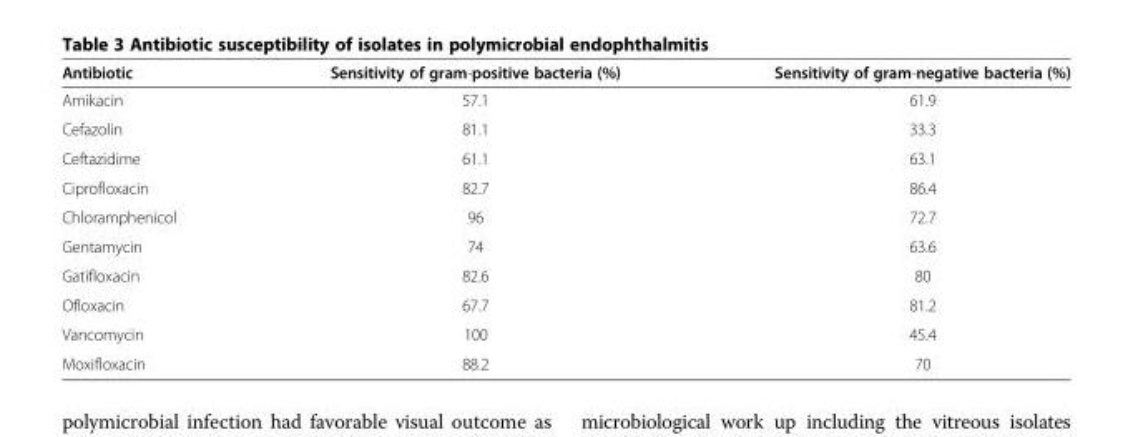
<table><thead><tr><td>Antibiotic</td><td>Sensitivity of gram-positive bacteria (%)</td><td>Sensitivity of gram-negative bacteria (%)</td></tr></thead><tbody><tr><td>Amikacin</td><td>57.1</td><td>61.9</td></tr><tr><td>Cefazolin</td><td>81.1</td><td>33.3</td></tr><tr><td>Ceftazidime</td><td>61.1</td><td>63.1</td></tr><tr><td>Ciprofloxacin</td><td>82.7</td><td>86.4</td></tr><tr><td>Chloramphenicol</td><td>96</td><td>72.7</td></tr><tr><td>Gentamycin</td><td>74</td><td>63.6</td></tr><tr><td>Gatifloxacin</td><td>82.6</td><td>80</td></tr><tr><td>Ofloxacin</td><td>67.7</td><td>81.2</td></tr><tr><td>Vancomycin</td><td>100</td><td>45.4</td></tr><tr><td>Moxifloxacin</td><td>88.2</td><td>70</td></tr></tbody></table>